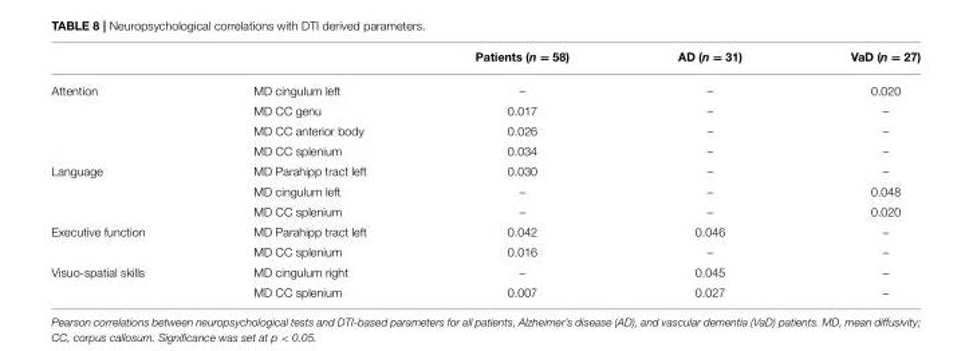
<table><thead><tr><td></td><td></td><td>Patients (n = 58)</td><td>AD (n = 31)</td><td>VaD (n = 27)</td></tr></thead><tbody><tr><td rowspan="4">Attention</td><td>MD cingulum left</td><td>–</td><td>–</td><td>0.020</td></tr><tr><td>MD CC genu</td><td>0.017</td><td>–</td><td>–</td></tr><tr><td>MD CC anterior body</td><td>0.026</td><td>–</td><td>–</td></tr><tr><td>MD CC splenium</td><td>0.034</td><td>–</td><td>–</td></tr><tr><td rowspan="3">Language</td><td>MD Parahipp tract left</td><td>0.030</td><td>–</td><td>–</td></tr><tr><td>MD cingulum left</td><td>–</td><td>–</td><td>0.048</td></tr><tr><td>MD CC splenium</td><td>–</td><td>–</td><td>0.020</td></tr><tr><td rowspan="2">Executive function</td><td>MD Parahipp tract left</td><td>0.042</td><td>0.046</td><td>–</td></tr><tr><td>MD CC splenium</td><td>0.016</td><td>–</td><td>–</td></tr><tr><td rowspan="2">Visuo-spatial skills</td><td>MD cingulum right</td><td>–</td><td>0.045</td><td>–</td></tr><tr><td>MD CC splenium</td><td>0.007</td><td>0.027</td><td>–</td></tr></tbody></table>